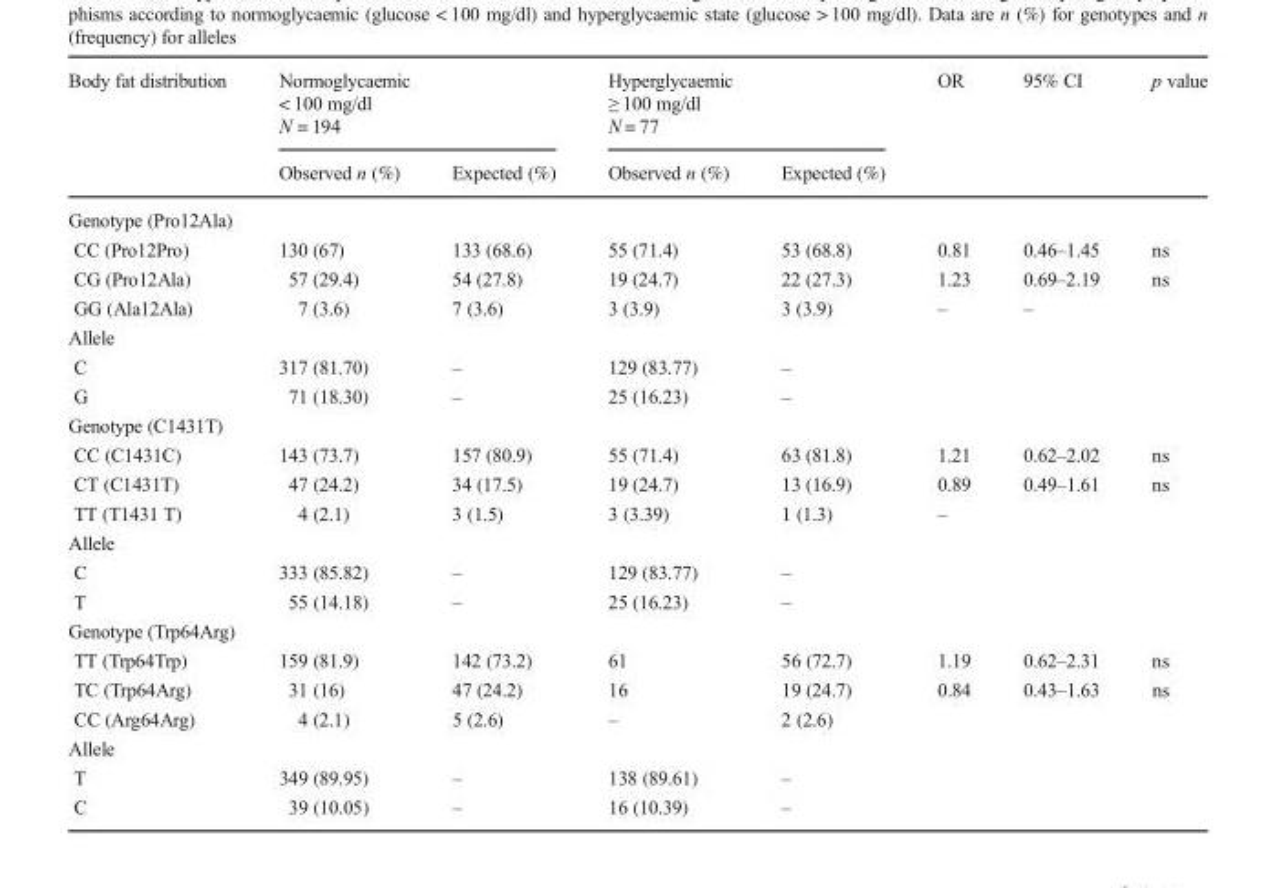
<table><thead><tr><td rowspan="2">Body fat distribution</td><td colspan="2">Normoglycaemic &lt; 100 mg/dl N = 194</td><td colspan="2">Hyperglycaemic ≥ 100 mg/dl N = 77</td><td rowspan="2">OR</td><td rowspan="2">95% CI</td><td rowspan="2">p value</td></tr><tr><td>Observed n (%)</td><td>Expected (%)</td><td>Observed n (%)</td><td>Expected (%)</td></tr></thead><tbody><tr><td colspan="8">Genotype (Pro12Ala)</td></tr><tr><td>CC (Pro12Pro)</td><td>130 (67)</td><td>133 (68.6)</td><td>55 (71.4)</td><td>53 (68.8)</td><td>0.81</td><td>0.46–1.45</td><td>ns</td></tr><tr><td>CG (Pro12Ala)</td><td>57 (29.4)</td><td>54 (27.8)</td><td>19 (24.7)</td><td>22 (27.3)</td><td>1.23</td><td>0.69–2.19</td><td>ns</td></tr><tr><td>GG (Ala12Ala)</td><td>7 (3.6)</td><td>7 (3.6)</td><td>3 (3.9)</td><td>3 (3.9)</td><td>–</td><td colspan="2">–</td></tr><tr><td colspan="8">Allele</td></tr><tr><td>C</td><td>317 (81.70)</td><td>–</td><td>129 (83.77)</td><td colspan="4">–</td></tr><tr><td>G</td><td>71 (18.30)</td><td>–</td><td>25 (16.23)</td><td colspan="4">–</td></tr><tr><td colspan="8">Genotype (C1431T)</td></tr><tr><td>CC (C1431C)</td><td>143 (73.7)</td><td>157 (80.9)</td><td>55 (71.4)</td><td>63 (81.8)</td><td>1.21</td><td>0.62–2.02</td><td>ns</td></tr><tr><td>CT (C1431T)</td><td>47 (24.2)</td><td>34 (17.5)</td><td>19 (24.7)</td><td>13 (16.9)</td><td>0.89</td><td>0.49–1.61</td><td>ns</td></tr><tr><td>TT (T1431 T)</td><td>4 (2.1)</td><td>3 (1.5)</td><td>3 (3.39)</td><td>1 (1.3)</td><td colspan="3">–</td></tr><tr><td colspan="8">Allele</td></tr><tr><td>C</td><td>333 (85.82)</td><td>–</td><td>129 (83.77)</td><td colspan="4">–</td></tr><tr><td>T</td><td>55 (14.18)</td><td>–</td><td>25 (16.23)</td><td colspan="4">–</td></tr><tr><td colspan="8">Genotype (Trp64Arg)</td></tr><tr><td>TT (Trp64Trp)</td><td>159 (81.9)</td><td>142 (73.2)</td><td>61</td><td>56 (72.7)</td><td>1.19</td><td>0.62–2.31</td><td>ns</td></tr><tr><td>TC (Trp64Arg)</td><td>31 (16)</td><td>47 (24.2)</td><td>16</td><td>19 (24.7)</td><td>0.84</td><td>0.43–1.63</td><td>ns</td></tr><tr><td>CC (Arg64Arg)</td><td>4 (2.1)</td><td>5 (2.6)</td><td>–</td><td colspan="4">2 (2.6)</td></tr><tr><td colspan="8">Allele</td></tr><tr><td>T</td><td>349 (89.95)</td><td>–</td><td>138 (89.61)</td><td colspan="4">–</td></tr><tr><td>C</td><td>39 (10.05)</td><td>–</td><td>16 (10.39)</td><td colspan="4">–</td></tr></tbody></table>